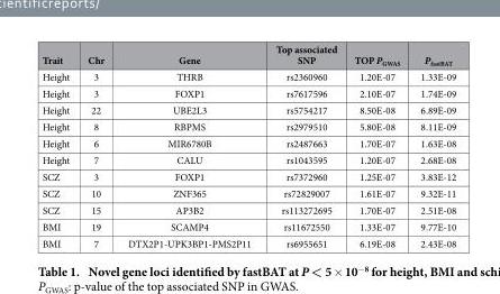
<table><thead><tr><td>Trait</td><td>Chr</td><td>Gene</td><td>Top associated SNP</td><td>TOP P<sub>GWAS</sub></td><td>P<sub>fastBAT</sub></td></tr></thead><tbody><tr><td>Height</td><td>3</td><td>THRB</td><td>rs2360960</td><td>1.20E-07</td><td>1.33E-09</td></tr><tr><td>Height</td><td>3</td><td>FOXP1</td><td>rs7617596</td><td>2.10E-07</td><td>1.74E-09</td></tr><tr><td>Height</td><td>22</td><td>UBE2L3</td><td>rs5754217</td><td>8.50E-08</td><td>6.89E-09</td></tr><tr><td>Height</td><td>8</td><td>RBPMS</td><td>rs2979510</td><td>5.80E-08</td><td>8.11E-09</td></tr><tr><td>Height</td><td>6</td><td>MIR6780B</td><td>rs2487663</td><td>1.70E-07</td><td>1.63E-08</td></tr><tr><td>Height</td><td>7</td><td>CALU</td><td>rs1043595</td><td>1.20E-07</td><td>2.68E-08</td></tr><tr><td>SCZ</td><td>3</td><td>FOXP1</td><td>rs7372960</td><td>1.25E-07</td><td>3.83E-12</td></tr><tr><td>SCZ</td><td>10</td><td>ZNF365</td><td>rs72829007</td><td>1.61E-07</td><td>9.32E-11</td></tr><tr><td>SCZ</td><td>15</td><td>AP3B2</td><td>rs113272695</td><td>1.70E-07</td><td>2.51E-08</td></tr><tr><td>BMI</td><td>19</td><td>SCAMP4</td><td>rs11672550</td><td>1.33E-07</td><td>9.77E-10</td></tr><tr><td>BMI</td><td>7</td><td>DTX2P1-UPK3BP1-PMS2P11</td><td>rs6955651</td><td>6.19E-08</td><td>2.43E-08</td></tr></tbody></table>